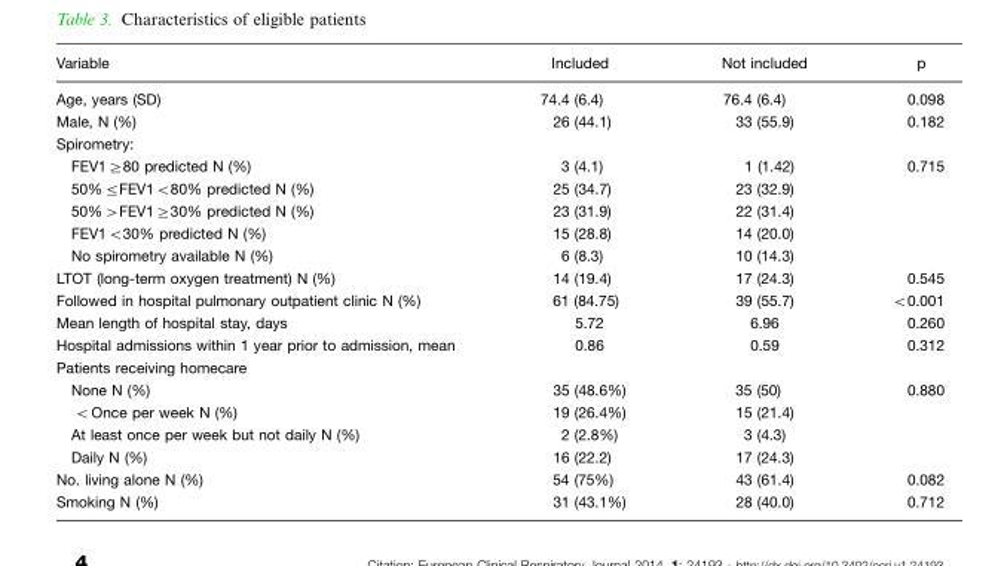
<table><thead><tr><td>Variable</td><td>Included</td><td>Not included</td><td>p</td></tr></thead><tbody><tr><td>Age, years (SD)</td><td>74.4 (6.4)</td><td>76.4 (6.4)</td><td>0.098</td></tr><tr><td>Male, N (%)</td><td>26 (44.1)</td><td>33 (55.9)</td><td>0.182</td></tr><tr><td colspan="4">Spirometry:</td></tr><tr><td>FEV1≥80 predicted N (%)</td><td>3 (4.1)</td><td>1 (1.42)</td><td>0.715</td></tr><tr><td>50%≤FEV1&lt;80% predicted N (%)</td><td>25 (34.7)</td><td>23 (32.9)</td><td></td></tr><tr><td>50%&gt;FEV1≥30% predicted N (%)</td><td>23 (31.9)</td><td>22 (31.4)</td><td></td></tr><tr><td>FEV1&lt;30% predicted N (%)</td><td>15 (28.8)</td><td>14 (20.0)</td><td></td></tr><tr><td>No spirometry available N (%)</td><td>6 (8.3)</td><td>10 (14.3)</td><td></td></tr><tr><td>LTOT (long-term oxygen treatment) N (%)</td><td>14 (19.4)</td><td>17 (24.3)</td><td>0.545</td></tr><tr><td>Followed in hospital pulmonary outpatient clinic N (%)</td><td>61 (84.75)</td><td>39 (55.7)</td><td>&lt;0.001</td></tr><tr><td>Mean length of hospital stay, days</td><td>5.72</td><td>6.96</td><td>0.260</td></tr><tr><td>Hospital admissions within 1 year prior to admission, mean</td><td>0.86</td><td>0.59</td><td>0.312</td></tr><tr><td colspan="4">Patients receiving homecare</td></tr><tr><td>None N (%)</td><td>35 (48.6%)</td><td>35 (50)</td><td>0.880</td></tr><tr><td>&lt;Once per week N (%)</td><td>19 (26.4%)</td><td>15 (21.4)</td><td></td></tr><tr><td>At least once per week but not daily N (%)</td><td>2 (2.8%)</td><td>3 (4.3)</td><td></td></tr><tr><td>Daily N (%)</td><td>16 (22.2)</td><td>17 (24.3)</td><td></td></tr><tr><td>No. living alone N (%)</td><td>54 (75%)</td><td>43 (61.4)</td><td>0.082</td></tr><tr><td>Smoking N (%)</td><td>31 (43.1%)</td><td>28 (40.0)</td><td>0.712</td></tr></tbody></table>